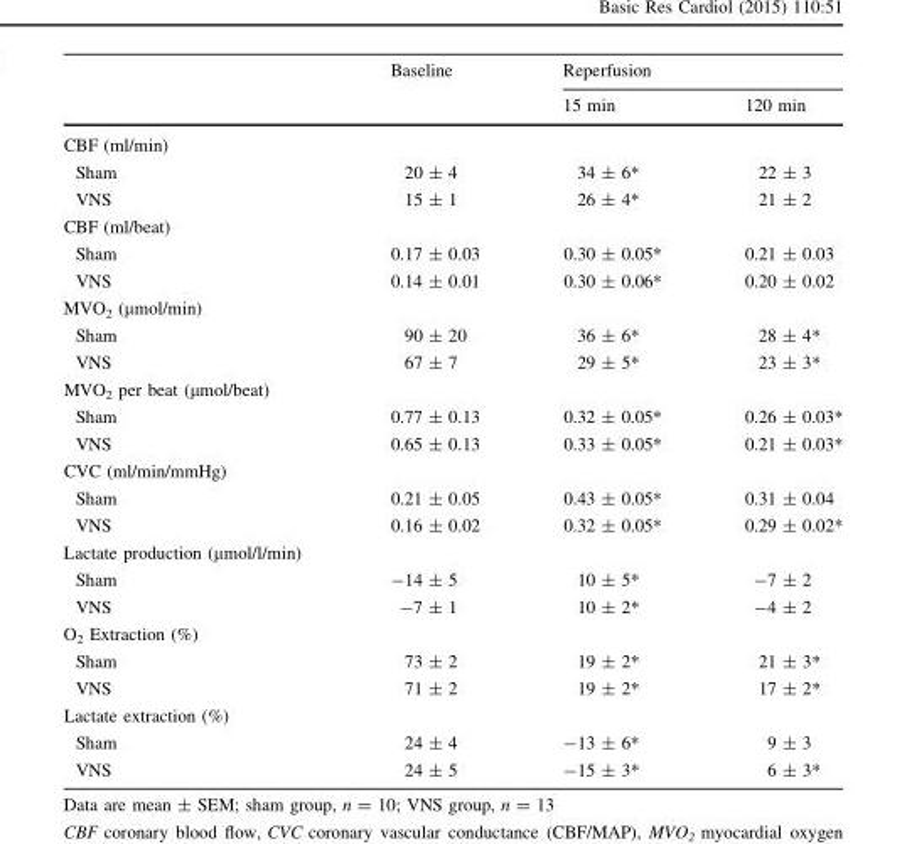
<table><thead><tr><td rowspan="2"></td><td rowspan="2">Baseline</td><td colspan="2">Reperfusion</td></tr><tr><td>15 min</td><td>120 min</td></tr></thead><tbody><tr><td colspan="4">CBF (ml/min)</td></tr><tr><td>Sham</td><td>20 ± 4</td><td>34 ± 6*</td><td>22 ± 3</td></tr><tr><td>VNS</td><td>15 ± 1</td><td>26 ± 4*</td><td>21 ± 2</td></tr><tr><td colspan="4">CBF (ml/beat)</td></tr><tr><td>Sham</td><td>0.17 ± 0.03</td><td>0.30 ± 0.05*</td><td>0.21 ± 0.03</td></tr><tr><td>VNS</td><td>0.14 ± 0.01</td><td>0.30 ± 0.06*</td><td>0.20 ± 0.02</td></tr><tr><td colspan="4">MVO<sub>2</sub> (µmol/min)</td></tr><tr><td>Sham</td><td>90 ± 20</td><td>36 ± 6*</td><td>28 ± 4*</td></tr><tr><td>VNS</td><td>67 ± 7</td><td>29 ± 5*</td><td>23 ± 3*</td></tr><tr><td colspan="4">MVO<sub>2</sub> per beat (µmol/beat)</td></tr><tr><td>Sham</td><td>0.77 ± 0.13</td><td>0.32 ± 0.05*</td><td>0.26 ± 0.03*</td></tr><tr><td>VNS</td><td>0.65 ± 0.13</td><td>0.33 ± 0.05*</td><td>0.21 ± 0.03*</td></tr><tr><td colspan="4">CVC (ml/min/mmHg)</td></tr><tr><td>Sham</td><td>0.21 ± 0.05</td><td>0.43 ± 0.05*</td><td>0.31 ± 0.04</td></tr><tr><td>VNS</td><td>0.16 ± 0.02</td><td>0.32 ± 0.05*</td><td>0.29 ± 0.02*</td></tr><tr><td colspan="4">Lactate production (µmol/l/min)</td></tr><tr><td>Sham</td><td>-14 ± 5</td><td>10 ± 5*</td><td>-7 ± 2</td></tr><tr><td>VNS</td><td>-7 ± 1</td><td>10 ± 2*</td><td>-4 ± 2</td></tr><tr><td colspan="4">O<sub>2</sub> Extraction (%)</td></tr><tr><td>Sham</td><td>73 ± 2</td><td>19 ± 2*</td><td>21 ± 3*</td></tr><tr><td>VNS</td><td>71 ± 2</td><td>19 ± 2*</td><td>17 ± 2*</td></tr><tr><td colspan="4">Lactate extraction (%)</td></tr><tr><td>Sham</td><td>24 ± 4</td><td>-13 ± 6*</td><td>9 ± 3</td></tr><tr><td>VNS</td><td>24 ± 5</td><td>-15 ± 3*</td><td>6 ± 3*</td></tr></tbody></table>